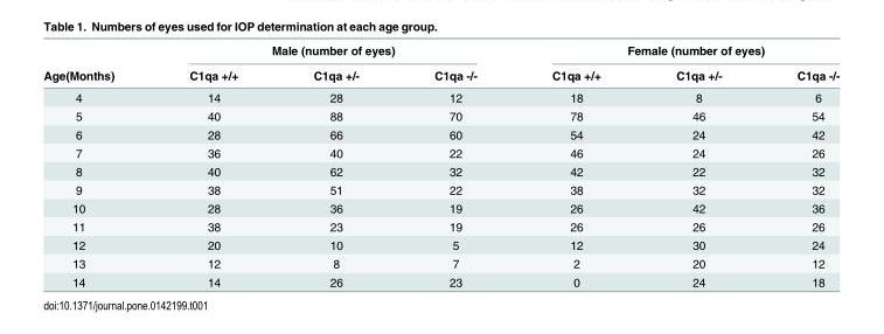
<table><thead><tr><td rowspan="2">Age(Months)</td><td colspan="3">Male (number of eyes)</td><td colspan="3">Female (number of eyes)</td></tr><tr><td>C1qa +/+</td><td>C1qa +/-</td><td>C1qa -/-</td><td>C1qa +/+</td><td>C1qa +/-</td><td>C1qa -/-</td></tr></thead><tbody><tr><td>4</td><td>14</td><td>28</td><td>12</td><td>18</td><td>8</td><td>6</td></tr><tr><td>5</td><td>40</td><td>88</td><td>70</td><td>78</td><td>46</td><td>54</td></tr><tr><td>6</td><td>28</td><td>66</td><td>60</td><td>54</td><td>24</td><td>42</td></tr><tr><td>7</td><td>36</td><td>40</td><td>22</td><td>46</td><td>24</td><td>26</td></tr><tr><td>8</td><td>40</td><td>62</td><td>32</td><td>42</td><td>22</td><td>32</td></tr><tr><td>9</td><td>38</td><td>51</td><td>22</td><td>38</td><td>32</td><td>32</td></tr><tr><td>10</td><td>28</td><td>36</td><td>19</td><td>26</td><td>42</td><td>36</td></tr><tr><td>11</td><td>38</td><td>23</td><td>19</td><td>26</td><td>26</td><td>26</td></tr><tr><td>12</td><td>20</td><td>10</td><td>5</td><td>12</td><td>30</td><td>24</td></tr><tr><td>13</td><td>12</td><td>8</td><td>7</td><td>2</td><td>20</td><td>12</td></tr><tr><td>14</td><td>14</td><td>26</td><td>23</td><td>0</td><td>24</td><td>18</td></tr></tbody></table>